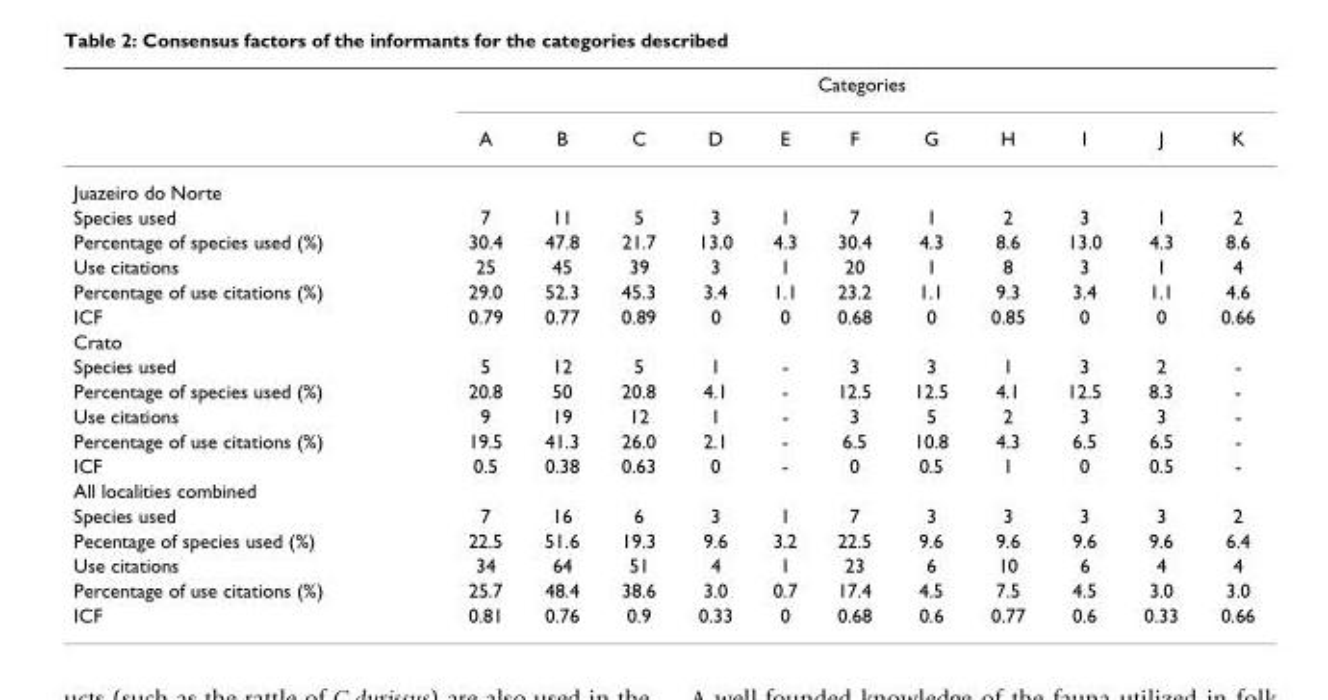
<table><thead><tr><td rowspan="2"></td><td colspan="11">Categories</td></tr><tr><td>A</td><td>B</td><td>C</td><td>D</td><td>E</td><td>F</td><td>G</td><td>H</td><td>I</td><td>J</td><td>K</td></tr></thead><tbody><tr><td colspan="12">Juazeiro do Norte</td></tr><tr><td>Species used</td><td>7</td><td>11</td><td>5</td><td>3</td><td>1</td><td>7</td><td>1</td><td>2</td><td>3</td><td>1</td><td>2</td></tr><tr><td>Percentage of species used (%)</td><td>30.4</td><td>47.8</td><td>21.7</td><td>13.0</td><td>4.3</td><td>30.4</td><td>4.3</td><td>8.6</td><td>13.0</td><td>4.3</td><td>8.6</td></tr><tr><td>Use citations</td><td>25</td><td>45</td><td>39</td><td>3</td><td>1</td><td>20</td><td>1</td><td>8</td><td>3</td><td>1</td><td>4</td></tr><tr><td>Percentage of use citations (%)</td><td>29.0</td><td>52.3</td><td>45.3</td><td>3.4</td><td>1.1</td><td>23.2</td><td>1.1</td><td>9.3</td><td>3.4</td><td>1.1</td><td>4.6</td></tr><tr><td>ICF</td><td>0.79</td><td>0.77</td><td>0.89</td><td>0</td><td>0</td><td>0.68</td><td>0</td><td>0.85</td><td>0</td><td>0</td><td>0.66</td></tr><tr><td colspan="12">Crato</td></tr><tr><td>Species used</td><td>5</td><td>12</td><td>5</td><td>1</td><td>-</td><td>3</td><td>3</td><td>1</td><td>3</td><td>2</td><td>-</td></tr><tr><td>Percentage of species used (%)</td><td>20.8</td><td>50</td><td>20.8</td><td>4.1</td><td>-</td><td>12.5</td><td>12.5</td><td>4.1</td><td>12.5</td><td>8.3</td><td>-</td></tr><tr><td>Use citations</td><td>9</td><td>19</td><td>12</td><td>1</td><td>-</td><td>3</td><td>5</td><td>2</td><td>3</td><td>3</td><td>-</td></tr><tr><td>Percentage of use citations (%)</td><td>19.5</td><td>41.3</td><td>26.0</td><td>2.1</td><td>-</td><td>6.5</td><td>10.8</td><td>4.3</td><td>6.5</td><td>6.5</td><td>-</td></tr><tr><td>ICF</td><td>0.5</td><td>0.38</td><td>0.63</td><td>0</td><td>-</td><td>0</td><td>0.5</td><td>1</td><td>0</td><td>0.5</td><td>-</td></tr><tr><td colspan="12">All localities combined</td></tr><tr><td>Species used</td><td>7</td><td>16</td><td>6</td><td>3</td><td>1</td><td>7</td><td>3</td><td>3</td><td>3</td><td>3</td><td>2</td></tr><tr><td>Pecentage of species used (%)</td><td>22.5</td><td>51.6</td><td>19.3</td><td>9.6</td><td>3.2</td><td>22.5</td><td>9.6</td><td>9.6</td><td>9.6</td><td>9.6</td><td>6.4</td></tr><tr><td>Use citations</td><td>34</td><td>64</td><td>51</td><td>4</td><td>1</td><td>23</td><td>6</td><td>10</td><td>6</td><td>4</td><td>4</td></tr><tr><td>Percentage of use citations (%)</td><td>25.7</td><td>48.4</td><td>38.6</td><td>3.0</td><td>0.7</td><td>17.4</td><td>4.5</td><td>7.5</td><td>4.5</td><td>3.0</td><td>3.0</td></tr><tr><td>ICF</td><td>0.81</td><td>0.76</td><td>0.9</td><td>0.33</td><td>0</td><td>0.68</td><td>0.6</td><td>0.77</td><td>0.6</td><td>0.33</td><td>0.66</td></tr></tbody></table>